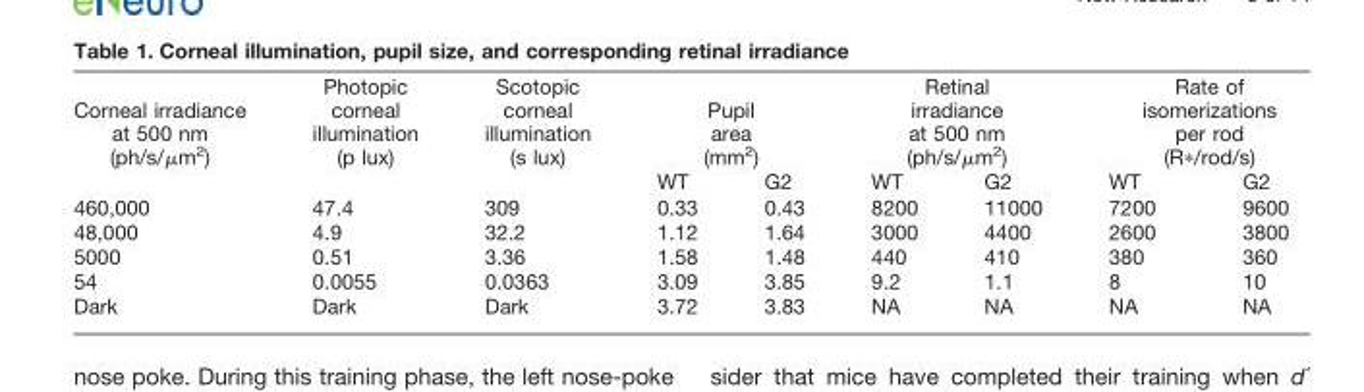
<table><thead><tr><td rowspan="2">Corneal irradiance at 500 nm (ph/s/μm<sup>2</sup>)</td><td rowspan="2">Photopic corneal illumination (p lux)</td><td rowspan="2">Scotopic corneal illumination (s lux)</td><td colspan="2">Pupil area (mm<sup>2</sup>)</td><td colspan="2">Retinal irradiance at 500 nm (ph/s/μm<sup>2</sup>)</td><td colspan="2">Rate of isomerizations per rod (R*/rod/s)</td></tr><tr><td>WT</td><td>G2</td><td>WT</td><td>G2</td><td>WT</td><td>G2</td></tr></thead><tbody><tr><td>460,000</td><td>47.4</td><td>309</td><td>0.33</td><td>0.43</td><td>8200</td><td>11000</td><td>7200</td><td>9600</td></tr><tr><td>48,000</td><td>4.9</td><td>32.2</td><td>1.12</td><td>1.64</td><td>3000</td><td>4400</td><td>2600</td><td>3800</td></tr><tr><td>5000</td><td>0.51</td><td>3.36</td><td>1.58</td><td>1.48</td><td>440</td><td>410</td><td>380</td><td>360</td></tr><tr><td>54</td><td>0.0055</td><td>0.0363</td><td>3.09</td><td>3.85</td><td>9.2</td><td>1.1</td><td>8</td><td>10</td></tr><tr><td>Dark</td><td>Dark</td><td>Dark</td><td>3.72</td><td>3.83</td><td>NA</td><td>NA</td><td>NA</td><td>NA</td></tr></tbody></table>